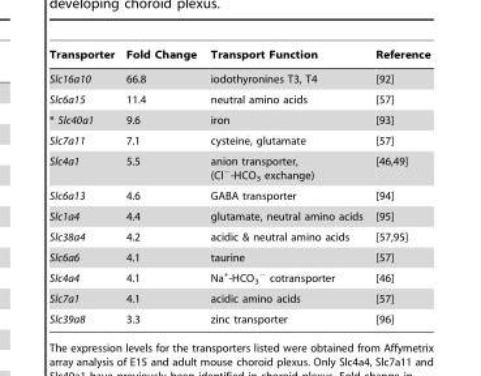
<table><thead><tr><td>Transporter</td><td>Fold Change</td><td>Transport Function</td><td>Reference</td></tr></thead><tbody><tr><td>Slc16a10</td><td>66.8</td><td>iodothyronines T3, T4</td><td>[92]</td></tr><tr><td>Slc6a15</td><td>11.4</td><td>neutral amino acids</td><td>[57]</td></tr><tr><td>* Slc40a1</td><td>9.6</td><td>iron</td><td>[93]</td></tr><tr><td>Slc7a11</td><td>7.1</td><td>cysteine, glutamate</td><td>[57]</td></tr><tr><td>Slc4a1</td><td>5.5</td><td>anion transporter, (Cl<sup>−</sup>-HCO<sub>3</sub> exchange)</td><td>[46,49]</td></tr><tr><td>Slc6a13</td><td>4.6</td><td>GABA transporter</td><td>[94]</td></tr><tr><td>Slc1a4</td><td>4.4</td><td>glutamate, neutral amino acids</td><td>[95]</td></tr><tr><td>Slc38a4</td><td>4.2</td><td>acidic &amp; neutral amino acids</td><td>[57,95]</td></tr><tr><td>Slc6a6</td><td>4.1</td><td>taurine</td><td>[57]</td></tr><tr><td>Slc4a4</td><td>4.1</td><td>Na<sup>+</sup>-HCO<sub>3</sub> <sup>−</sup> cotransporter</td><td>[46]</td></tr><tr><td>Slc7a1</td><td>4.1</td><td>acidic amino acids</td><td>[57]</td></tr><tr><td>Slc39a8</td><td>3.3</td><td>zinc transporter</td><td>[96]</td></tr></tbody></table>